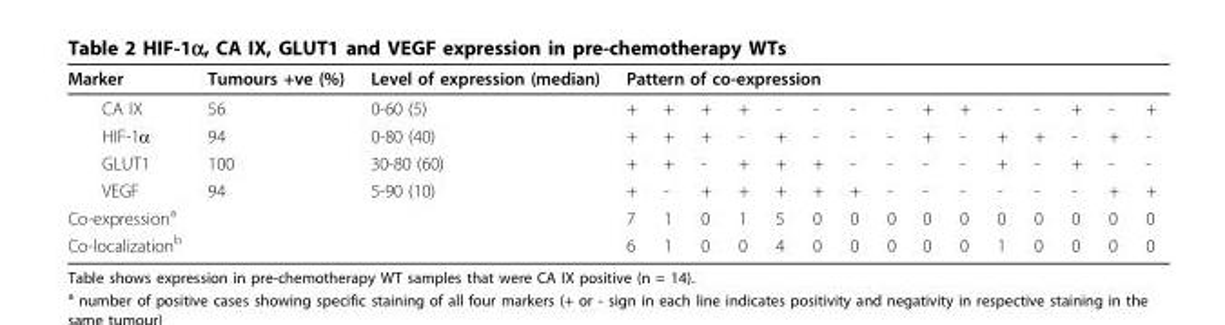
<table><thead><tr><td rowspan="2">Marker CA IX</td><td rowspan="2">Tumours +ve (%) 56</td><td rowspan="2">Level of expression (median) 0-60 (5)</td><td colspan="15">Pattern of co-expression</td></tr><tr><td>+</td><td>+</td><td>+</td><td>+</td><td>-</td><td>-</td><td>-</td><td>-</td><td>+</td><td>+</td><td>-</td><td>-</td><td>+</td><td>-</td><td>+</td></tr></thead><tbody><tr><td>HIF-1α</td><td>94</td><td>0-80 (40)</td><td>+</td><td>+</td><td>+</td><td>-</td><td>+</td><td>-</td><td>-</td><td>-</td><td>+</td><td>-</td><td>+</td><td>+</td><td>-</td><td>+</td><td>-</td></tr><tr><td>GLUT1</td><td>100</td><td>30-80 (60)</td><td>+</td><td>+</td><td>-</td><td>+</td><td>+</td><td>+</td><td>-</td><td>-</td><td>-</td><td>-</td><td>+</td><td>-</td><td>+</td><td>-</td><td>-</td></tr><tr><td>VEGF</td><td>94</td><td>5-90 (10)</td><td>+</td><td>-</td><td>+</td><td>+</td><td>+</td><td>+</td><td>+</td><td>-</td><td>-</td><td>-</td><td>-</td><td>-</td><td>-</td><td>+</td><td>+</td></tr><tr><td>Co-expression<sup>a</sup></td><td></td><td></td><td>7</td><td>1</td><td>0</td><td>1</td><td>5</td><td>0</td><td>0</td><td>0</td><td>0</td><td>0</td><td>0</td><td>0</td><td>0</td><td>0</td><td>0</td></tr><tr><td>Co-localization<sup>b</sup></td><td></td><td></td><td>6</td><td>1</td><td>0</td><td>0</td><td>4</td><td>0</td><td>0</td><td>0</td><td>0</td><td>0</td><td>1</td><td>0</td><td>0</td><td>0</td><td>0</td></tr></tbody></table>